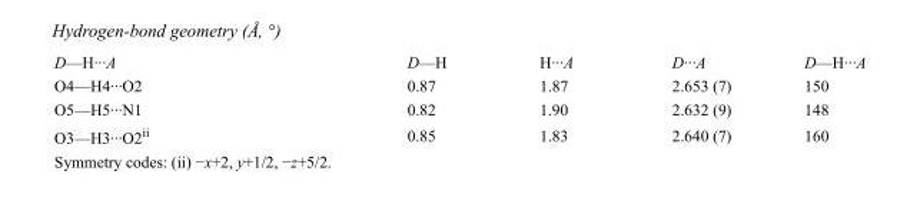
<table><tbody><tr><td>D—H···A</td><td>D—H</td><td>H···A</td><td>D···A</td><td>D—H···A</td></tr><tr><td>O4—H4···O2</td><td>0.87</td><td>1.87</td><td>2.653 (7)</td><td>150</td></tr><tr><td>O5—H5···N1</td><td>0.82</td><td>1.90</td><td>2.632 (9)</td><td>148</td></tr><tr><td>O3—H3···O2<sup>ii</sup></td><td>0.85</td><td>1.83</td><td>2.640 (7)</td><td>160</td></tr></tbody></table>